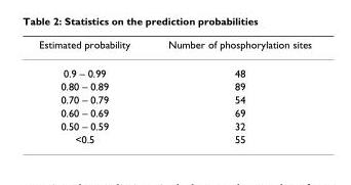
<table><thead><tr><td>Estimated probability</td><td>Number of phosphorylation sites</td></tr></thead><tbody><tr><td>0.9 – 0.99</td><td>48</td></tr><tr><td>0.80 – 0.89</td><td>89</td></tr><tr><td>0.70 – 0.79</td><td>54</td></tr><tr><td>0.60 – 0.69</td><td>69</td></tr><tr><td>0.50 – 0.59</td><td>32</td></tr><tr><td>&lt;0.5</td><td>55</td></tr></tbody></table>